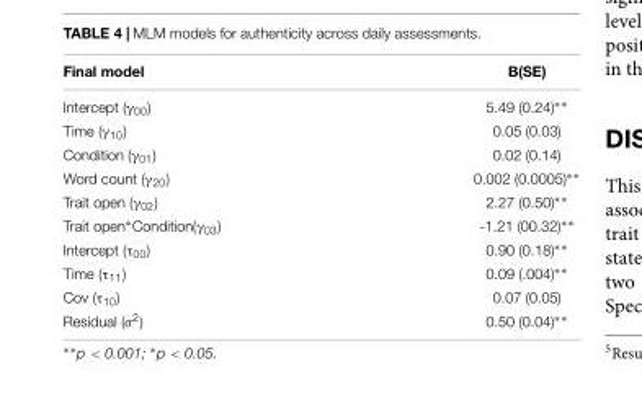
<table><thead><tr><td>Final model</td><td>B(SE)</td></tr></thead><tbody><tr><td>Intercept (γ<sub>00</sub>)</td><td>5.49 (0.24)∗∗</td></tr><tr><td>Time (γ<sub>10</sub>)</td><td>0.05 (0.03)</td></tr><tr><td>Condition (γ<sub>01</sub>)</td><td>0.02 (0.14)</td></tr><tr><td>Word count (γ<sub>20</sub>)</td><td>0.002 (0.0005)∗∗</td></tr><tr><td>Trait open (γ<sub>02</sub>)</td><td>2.27 (0.50)∗∗</td></tr><tr><td>Trait open∗Condition(γ<sub>03</sub>)</td><td>-1.21 (00.32)∗∗</td></tr><tr><td>Intercept (τ<sub>00</sub>)</td><td>0.90 (0.18)∗∗</td></tr><tr><td>Time (τ<sub>11</sub>)</td><td>0.09 (.004)∗∗</td></tr><tr><td>Cov (τ<sub>10</sub>)</td><td>0.07 (0.05)</td></tr><tr><td>Residual (σ<sup>2</sup>)</td><td>0.50 (0.04)∗∗</td></tr></tbody></table>